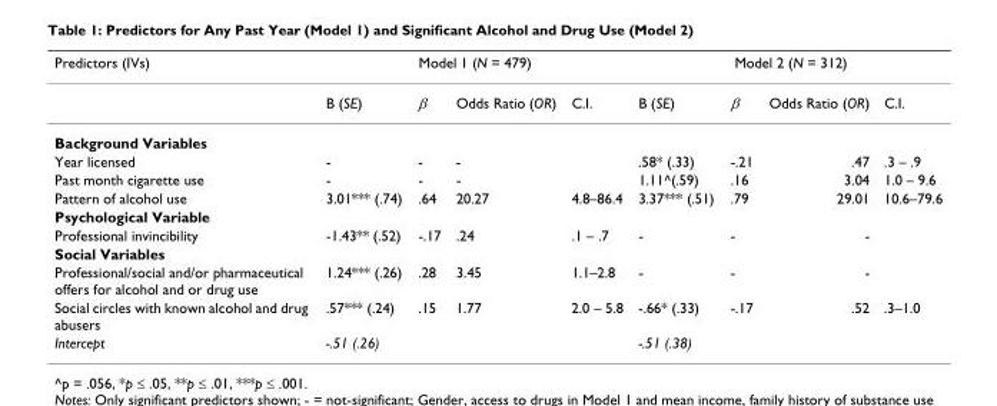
<table><thead><tr><td rowspan="2">Predictors (IVs)</td><td colspan="4">Model 1 (N = 479)</td><td colspan="4">Model 2 (N = 312)</td></tr><tr><td>B (SE)</td><td>β</td><td>Odds Ratio (OR)</td><td>C.I.</td><td>B (SE)</td><td>β</td><td>Odds Ratio (OR)</td><td>C.I.</td></tr></thead><tbody><tr><td colspan="9">Background Variables</td></tr><tr><td>Year licensed</td><td>-</td><td>-</td><td>-</td><td></td><td>.58* (.33)</td><td>-.21</td><td>.47</td><td>.3 – .9</td></tr><tr><td>Past month cigarette use</td><td>-</td><td>-</td><td>-</td><td></td><td>1.11^(.59)</td><td>.16</td><td>3.04</td><td>1.0 – 9.6</td></tr><tr><td>Pattern of alcohol use</td><td>3.01*** (.74)</td><td>.64</td><td>20.27</td><td>4.8–86.4</td><td>3.37*** (.51)</td><td>.79</td><td>29.01</td><td>10.6–79.6</td></tr><tr><td colspan="9">Psychological Variable</td></tr><tr><td>Professional invincibility</td><td>-1.43** (.52)</td><td>-.17</td><td>.24</td><td>.1 – .7</td><td>-</td><td>-</td><td>-</td><td></td></tr><tr><td colspan="9">Social Variables</td></tr><tr><td>Professional/social and/or pharmaceutical offers for alcohol and or drug use</td><td>1.24*** (.26)</td><td>.28</td><td>3.45</td><td>1.1–2.8</td><td>-</td><td>-</td><td>-</td><td></td></tr><tr><td>Social circles with known alcohol and drug abusers</td><td>.57*** (.24)</td><td>.15</td><td>1.77</td><td>2.0 – 5.8</td><td>-.66* (.33)</td><td>-.17</td><td>.52</td><td>.3–1.0</td></tr><tr><td>Intercept</td><td>-.51 (.26)</td><td></td><td></td><td></td><td>-.51 (.38)</td><td></td><td></td><td></td></tr></tbody></table>